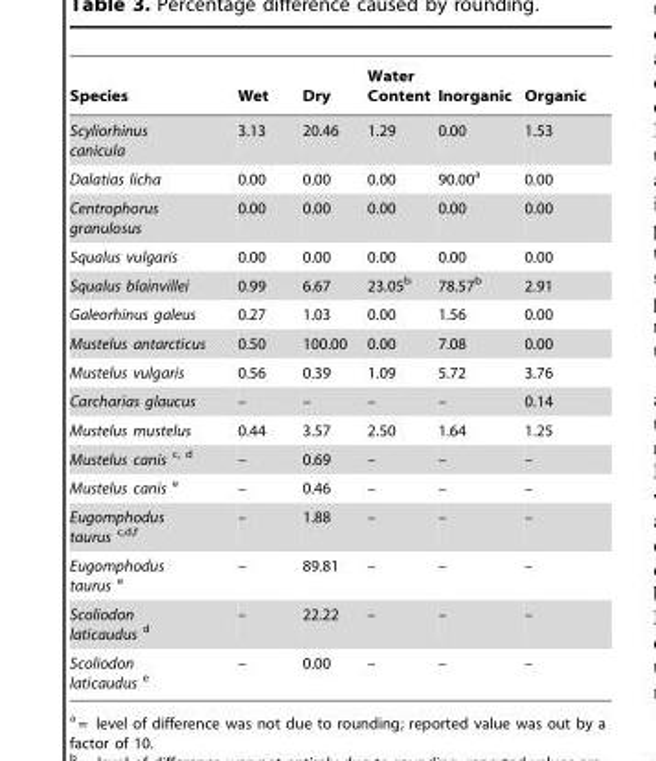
<table><thead><tr><td>Species</td><td>Wet</td><td>Dry</td><td>Water Content</td><td>Inorganic</td><td>Organic</td></tr></thead><tbody><tr><td>Scyliorhinus canicula</td><td>3.13</td><td>20.46</td><td>1.29</td><td>0.00</td><td>1.53</td></tr><tr><td>Dalatias licha</td><td>0.00</td><td>0.00</td><td>0.00</td><td>90.00<sup>a</sup></td><td>0.00</td></tr><tr><td>Centrophorus granulosus</td><td>0.00</td><td>0.00</td><td>0.00</td><td>0.00</td><td>0.00</td></tr><tr><td>Squalus vulgaris</td><td>0.00</td><td>0.00</td><td>0.00</td><td>0.00</td><td>0.00</td></tr><tr><td>Squalus blainvillei</td><td>0.99</td><td>6.67</td><td>23.05<sup>b</sup></td><td>78.57<sup>b</sup></td><td>2.91</td></tr><tr><td>Galeorhinus galeus</td><td>0.27</td><td>1.03</td><td>0.00</td><td>1.56</td><td>0.00</td></tr><tr><td>Mustelus antarcticus</td><td>0.50</td><td>100.00</td><td>0.00</td><td>7.08</td><td>0.00</td></tr><tr><td>Mustelus vulgaris</td><td>0.56</td><td>0.39</td><td>1.09</td><td>5.72</td><td>3.76</td></tr><tr><td>Carcharias glaucus</td><td>–</td><td>–</td><td>–</td><td>–</td><td>0.14</td></tr><tr><td>Mustelus mustelus</td><td>0.44</td><td>3.57</td><td>2.50</td><td>1.64</td><td>1.25</td></tr><tr><td>Mustelus canis c, d</td><td>–</td><td>0.69</td><td>–</td><td>–</td><td>–</td></tr><tr><td>Mustelus canis e</td><td>–</td><td>0.46</td><td>–</td><td>–</td><td>–</td></tr><tr><td>Eugomphodus taurus c,d,f</td><td>–</td><td>1.88</td><td>–</td><td>–</td><td>–</td></tr><tr><td>Eugomphodus taurus e</td><td>–</td><td>89.81</td><td>–</td><td>–</td><td>–</td></tr><tr><td>Scoliodon laticaudus d</td><td>–</td><td>22.22</td><td>–</td><td>–</td><td>–</td></tr><tr><td>Scoliodon laticaudus e</td><td>–</td><td>0.00</td><td>–</td><td>–</td><td>–</td></tr></tbody></table>